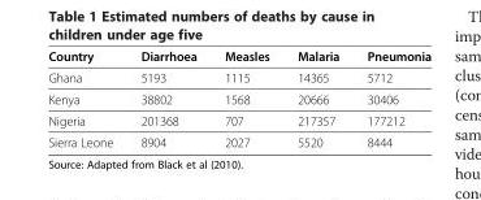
<table><thead><tr><td>Country</td><td>Diarrhoea</td><td>Measles</td><td>Malaria</td><td>Pneumonia</td></tr></thead><tbody><tr><td>Ghana</td><td>5193</td><td>1115</td><td>14365</td><td>5712</td></tr><tr><td>Kenya</td><td>38802</td><td>1568</td><td>20666</td><td>30406</td></tr><tr><td>Nigeria</td><td>201368</td><td>707</td><td>217357</td><td>177212</td></tr><tr><td>Sierra Leone</td><td>8904</td><td>2027</td><td>5520</td><td>8444</td></tr></tbody></table>